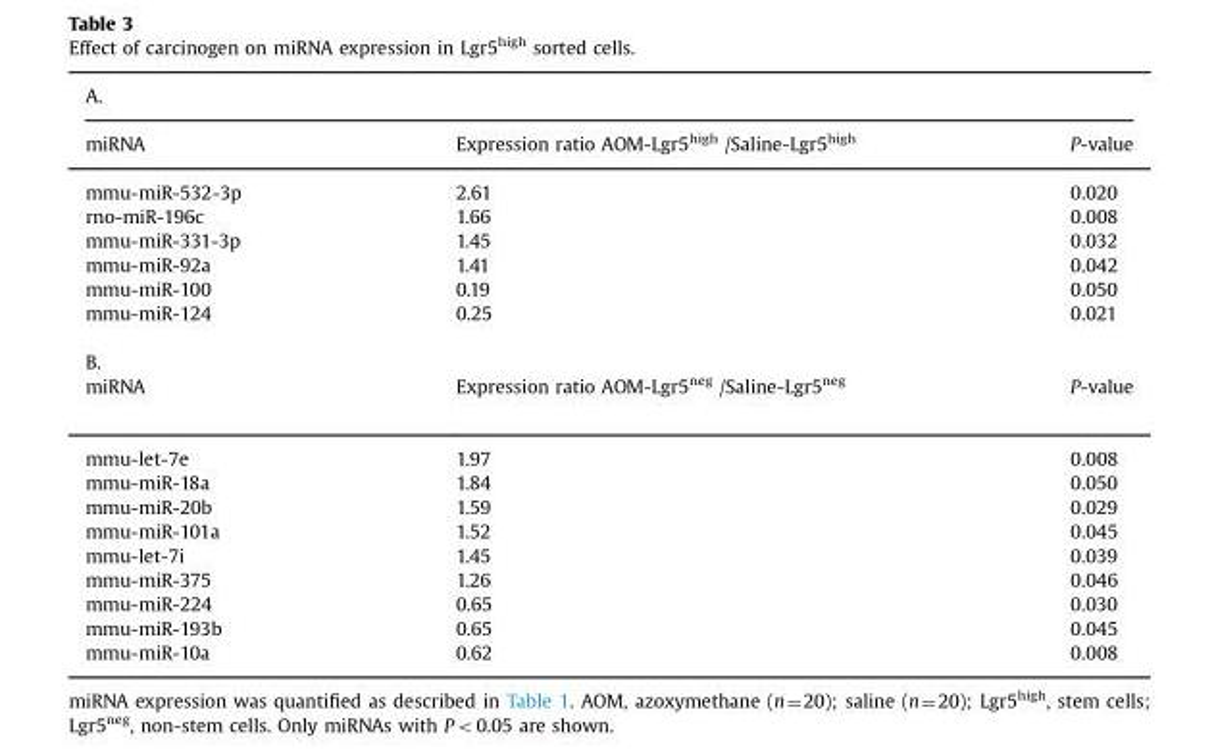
<table><thead><tr><td colspan="3">A.</td></tr><tr><td>miRNA</td><td>Expression ratio AOM-Lgr5<sup>high</sup> /Saline-Lgr5<sup>high</sup></td><td>P-value</td></tr></thead><tbody><tr><td>mmu-miR-532-3p</td><td>2.61</td><td>0.020</td></tr><tr><td>rno-miR-196c</td><td>1.66</td><td>0.008</td></tr><tr><td>mmu-miR-331-3p</td><td>1.45</td><td>0.032</td></tr><tr><td>mmu-miR-92a</td><td>1.41</td><td>0.042</td></tr><tr><td>mmu-miR-100</td><td>0.19</td><td>0.050</td></tr><tr><td>mmu-miR-124</td><td>0.25</td><td>0.021</td></tr><tr><td colspan="3">B.</td></tr><tr><td>miRNA</td><td>Expression ratio AOM-Lgr5<sup>neg</sup> /Saline-Lgr5<sup>neg</sup></td><td>P-value</td></tr><tr><td>mmu-let-7e</td><td>1.97</td><td>0.008</td></tr><tr><td>mmu-miR-18a</td><td>1.84</td><td>0.050</td></tr><tr><td>mmu-miR-20b</td><td>1.59</td><td>0.029</td></tr><tr><td>mmu-miR-101a</td><td>1.52</td><td>0.045</td></tr><tr><td>mmu-let-7i</td><td>1.45</td><td>0.039</td></tr><tr><td>mmu-miR-375</td><td>1.26</td><td>0.046</td></tr><tr><td>mmu-miR-224</td><td>0.65</td><td>0.030</td></tr><tr><td>mmu-miR-193b</td><td>0.65</td><td>0.045</td></tr><tr><td>mmu-miR-10a</td><td>0.62</td><td>0.008</td></tr></tbody></table>